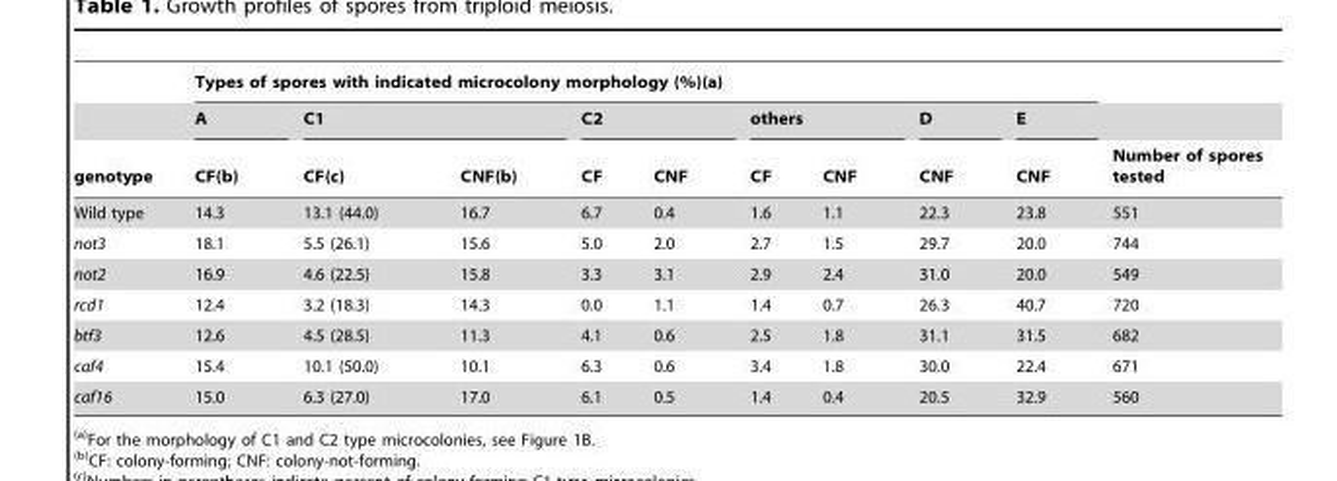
<table><thead><tr><td rowspan="3">genotype</td><td colspan="9">Types of spores with indicated microcolony morphology (%)(a)</td><td rowspan="3">Number of spores tested</td></tr><tr><td rowspan="2">A CF(b)</td><td colspan="2">C1</td><td colspan="2">C2</td><td colspan="2">others</td><td rowspan="2">D CNF</td><td rowspan="2">E CNF</td></tr><tr><td>CF(c)</td><td>CNF(b)</td><td>CF</td><td>CNF</td><td>CF</td><td>CNF</td></tr></thead><tbody><tr><td>Wild type</td><td>14.3</td><td>13.1 (44.0)</td><td>16.7</td><td>6.7</td><td>0.4</td><td>1.6</td><td>1.1</td><td>22.3</td><td>23.8</td><td>551</td></tr><tr><td>not3</td><td>18.1</td><td>5.5 (26.1)</td><td>15.6</td><td>5.0</td><td>2.0</td><td>2.7</td><td>1.5</td><td>29.7</td><td>20.0</td><td>744</td></tr><tr><td>not2</td><td>16.9</td><td>4.6 (22.5)</td><td>15.8</td><td>3.3</td><td>3.1</td><td>2.9</td><td>2.4</td><td>31.0</td><td>20.0</td><td>549</td></tr><tr><td>rcd1</td><td>12.4</td><td>3.2 (18.3)</td><td>14.3</td><td>0.0</td><td>1.1</td><td>1.4</td><td>0.7</td><td>26.3</td><td>40.7</td><td>720</td></tr><tr><td>btf3</td><td>12.6</td><td>4.5 (28.5)</td><td>11.3</td><td>4.1</td><td>0.6</td><td>2.5</td><td>1.8</td><td>31.1</td><td>31.5</td><td>682</td></tr><tr><td>caf4</td><td>15.4</td><td>10.1 (50.0)</td><td>10.1</td><td>6.3</td><td>0.6</td><td>3.4</td><td>1.8</td><td>30.0</td><td>22.4</td><td>671</td></tr><tr><td>caf16</td><td>15.0</td><td>6.3 (27.0)</td><td>17.0</td><td>6.1</td><td>0.5</td><td>1.4</td><td>0.4</td><td>20.5</td><td>32.9</td><td>560</td></tr></tbody></table>